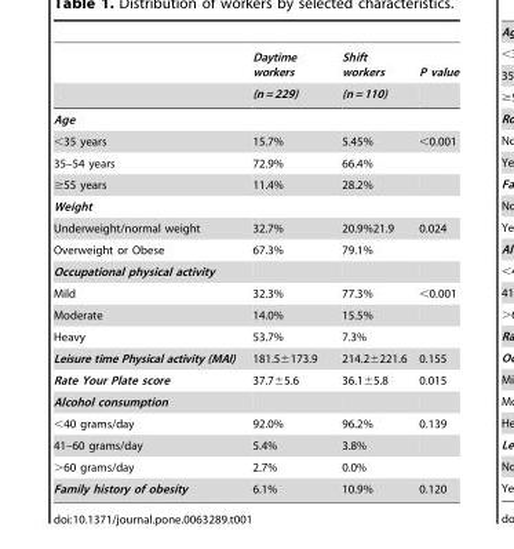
<table><thead><tr><td rowspan="2"></td><td rowspan="2">Daytime workers (n = 229)</td><td rowspan="2">Shift workers (n = 110)</td><td rowspan="2">P value</td></tr><tr></tr></thead><tbody><tr><td colspan="4">Age</td></tr><tr><td>&lt;35 years</td><td>15.7%</td><td>5.45%</td><td>&lt;0.001</td></tr><tr><td>35–54 years</td><td>72.9%</td><td>66.4%</td><td></td></tr><tr><td>≥55 years</td><td>11.4%</td><td>28.2%</td><td></td></tr><tr><td colspan="4">Weight</td></tr><tr><td>Underweight/normal weight</td><td>32.7%</td><td>20.9%21.9</td><td>0.024</td></tr><tr><td>Overweight or Obese</td><td>67.3%</td><td>79.1%</td><td></td></tr><tr><td colspan="4">Occupational physical activity</td></tr><tr><td>Mild</td><td>32.3%</td><td>77.3%</td><td>&lt;0.001</td></tr><tr><td>Moderate</td><td>14.0%</td><td>15.5%</td><td></td></tr><tr><td>Heavy</td><td>53.7%</td><td>7.3%</td><td></td></tr><tr><td>Leisure time Physical activity (MAI)</td><td>181.5±173.9</td><td>214.2±221.6</td><td>0.155</td></tr><tr><td>Rate Your Plate score</td><td>37.7±5.6</td><td>36.1±5.8</td><td>0.015</td></tr><tr><td colspan="4">Alcohol consumption</td></tr><tr><td>&lt;40 grams/day</td><td>92.0%</td><td>96.2%</td><td>0.139</td></tr><tr><td>41–60 grams/day</td><td>5.4%</td><td>3.8%</td><td></td></tr><tr><td>&gt;60 grams/day</td><td>2.7%</td><td>0.0%</td><td></td></tr><tr><td>Family history of obesity</td><td>6.1%</td><td>10.9%</td><td>0.120</td></tr></tbody></table>